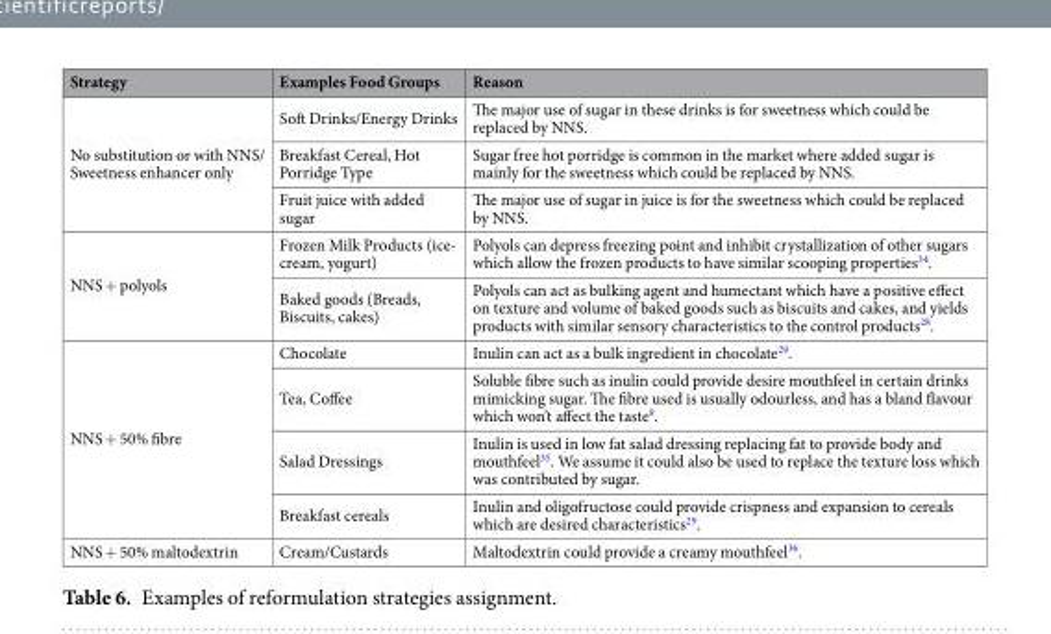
<table><thead><tr><td>Strategy</td><td>Examples Food Groups</td><td>Reason</td></tr></thead><tbody><tr><td rowspan="3">No substitution or with NNS/ Sweetness enhancer only</td><td>Soft Drinks/Energy Drinks</td><td>The major use of sugar in these drinks is for sweetness which could be replaced by NNS.</td></tr><tr><td>Breakfast Cereal, Hot Porridge Type</td><td>Sugar free hot porridge is common in the market where added sugar is mainly for the sweetness which could be replaced by NNS.</td></tr><tr><td>Fruit juice with added sugar</td><td>The major use of sugar in juice is for the sweetness which could be replaced by NNS.</td></tr><tr><td rowspan="2">NNS + polyols</td><td>Frozen Milk Products (ice- cream, yogurt)</td><td>Polyols can depress freezing point and inhibit crystallization of other sugars which allow the frozen products to have similar scooping properties<sup>34</sup>.</td></tr><tr><td>Baked goods (Breads, Biscuits, cakes)</td><td>Polyols can act as bulking agent and humectant which have a positive effect on texture and volume of baked goods such as biscuits and cakes, and yields products with similar sensory characteristics to the control products<sup>28</sup>.</td></tr><tr><td rowspan="4">NNS + 50% fibre</td><td>Chocolate</td><td>Inulin can act as a bulk ingredient in chocolate<sup>29</sup>.</td></tr><tr><td>Tea, Coffee</td><td>Soluble fibre such as inulin could provide desire mouthfeel in certain drinks mimicking sugar. The fibre used is usually odourless, and has a bland flavour which won’t affect the taste<sup>9</sup>.</td></tr><tr><td>Salad Dressings</td><td>Inulin is used in low fat salad dressing replacing fat to provide body and mouthfeel<sup>35</sup>. We assume it could also be used to replace the texture loss which was contributed by sugar.</td></tr><tr><td>Breakfast cereals</td><td>Inulin and oligofructose could provide crispness and expansion to cereals which are desired characteristics<sup>29</sup>.</td></tr><tr><td>NNS + 50% maltodextrin</td><td>Cream/Custards</td><td>Maltodextrin could provide a creamy mouthfeel<sup>36</sup>.</td></tr></tbody></table>